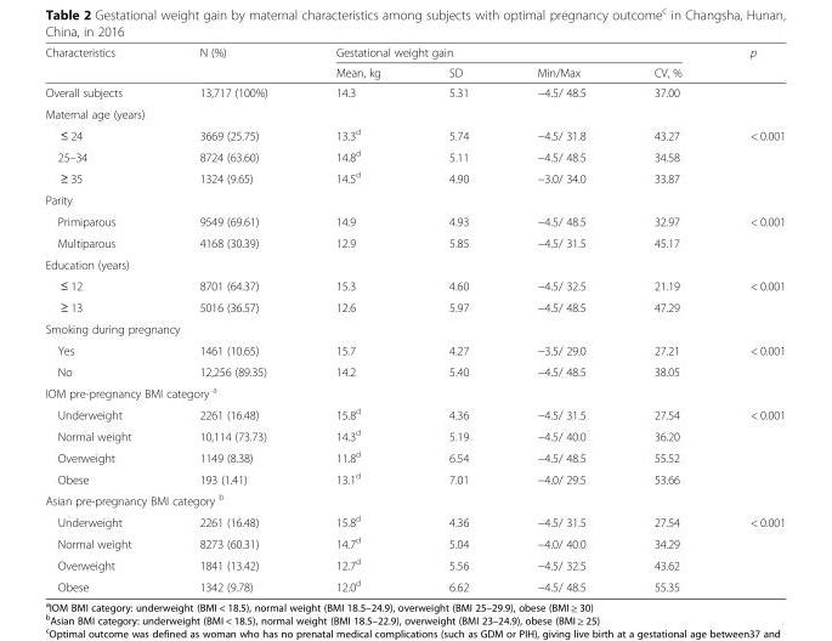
<table><thead><tr><td rowspan="2">Characteristics</td><td rowspan="2">N (%)</td><td colspan="4">Gestational weight gain</td><td rowspan="2">p</td></tr><tr><td>Mean, kg</td><td>SD</td><td>Min/Max</td><td>CV, %</td></tr></thead><tbody><tr><td>Overall subjects</td><td>13,717 (100%)</td><td>14.3</td><td>5.31</td><td>−4.5/ 48.5</td><td>37.00</td><td></td></tr><tr><td colspan="7">Maternal age (years)</td></tr><tr><td>≤ 24</td><td>3669 (25.75)</td><td>13.3<sup>d</sup></td><td>5.74</td><td>−4.5/ 31.8</td><td>43.27</td><td>&lt; 0.001</td></tr><tr><td>25–34</td><td>8724 (63.60)</td><td>14.8<sup>d</sup></td><td>5.11</td><td>−4.5/ 48.5</td><td>34.58</td><td></td></tr><tr><td>≥ 35</td><td>1324 (9.65)</td><td>14.5<sup>d</sup></td><td>4.90</td><td>−3.0/ 34.0</td><td>33.87</td><td></td></tr><tr><td colspan="7">Parity</td></tr><tr><td>Primiparous</td><td>9549 (69.61)</td><td>14.9</td><td>4.93</td><td>−4.5/ 48.5</td><td>32.97</td><td>&lt; 0.001</td></tr><tr><td>Multiparous</td><td>4168 (30.39)</td><td>12.9</td><td>5.85</td><td>−4.5/ 31.5</td><td>45.17</td><td></td></tr><tr><td colspan="7">Education (years)</td></tr><tr><td>≤ 12</td><td>8701 (64.37)</td><td>15.3</td><td>4.60</td><td>−4.5/ 32.5</td><td>21.19</td><td>&lt; 0.001</td></tr><tr><td>≥ 13</td><td>5016 (36.57)</td><td>12.6</td><td>5.97</td><td>−4.5/ 48.5</td><td>47.29</td><td></td></tr><tr><td colspan="7">Smoking during pregnancy</td></tr><tr><td>Yes</td><td>1461 (10.65)</td><td>15.7</td><td>4.27</td><td>−3.5/ 29.0</td><td>27.21</td><td>&lt; 0.001</td></tr><tr><td>No</td><td>12,256 (89.35)</td><td>14.2</td><td>5.40</td><td>−4.5/ 48.5</td><td>38.05</td><td></td></tr><tr><td colspan="7">IOM pre-pregnancy BMI category <sup>a</sup></td></tr><tr><td>Underweight</td><td>2261 (16.48)</td><td>15.8<sup>d</sup></td><td>4.36</td><td>−4.5/ 31.5</td><td>27.54</td><td>&lt; 0.001</td></tr><tr><td>Normal weight</td><td>10,114 (73.73)</td><td>14.3<sup>d</sup></td><td>5.19</td><td>−4.5/ 40.0</td><td>36.20</td><td></td></tr><tr><td>Overweight</td><td>1149 (8.38)</td><td>11.8<sup>d</sup></td><td>6.54</td><td>−4.5/ 48.5</td><td>55.52</td><td></td></tr><tr><td>Obese</td><td>193 (1.41)</td><td>13.1<sup>d</sup></td><td>7.01</td><td>−4.0/ 29.5</td><td>53.66</td><td></td></tr><tr><td colspan="7">Asian pre-pregnancy BMI category <sup>b</sup></td></tr><tr><td>Underweight</td><td>2261 (16.48)</td><td>15.8<sup>d</sup></td><td>4.36</td><td>−4.5/ 31.5</td><td>27.54</td><td>&lt; 0.001</td></tr><tr><td>Normal weight</td><td>8273 (60.31)</td><td>14.7<sup>d</sup></td><td>5.04</td><td>−4.0/ 40.0</td><td>34.29</td><td></td></tr><tr><td>Overweight</td><td>1841 (13.42)</td><td>12.7<sup>d</sup></td><td>5.56</td><td>−4.5/ 32.5</td><td>43.62</td><td></td></tr><tr><td>Obese</td><td>1342 (9.78)</td><td>12.0<sup>d</sup></td><td>6.62</td><td>−4.5/ 48.5</td><td>55.35</td><td></td></tr></tbody></table>